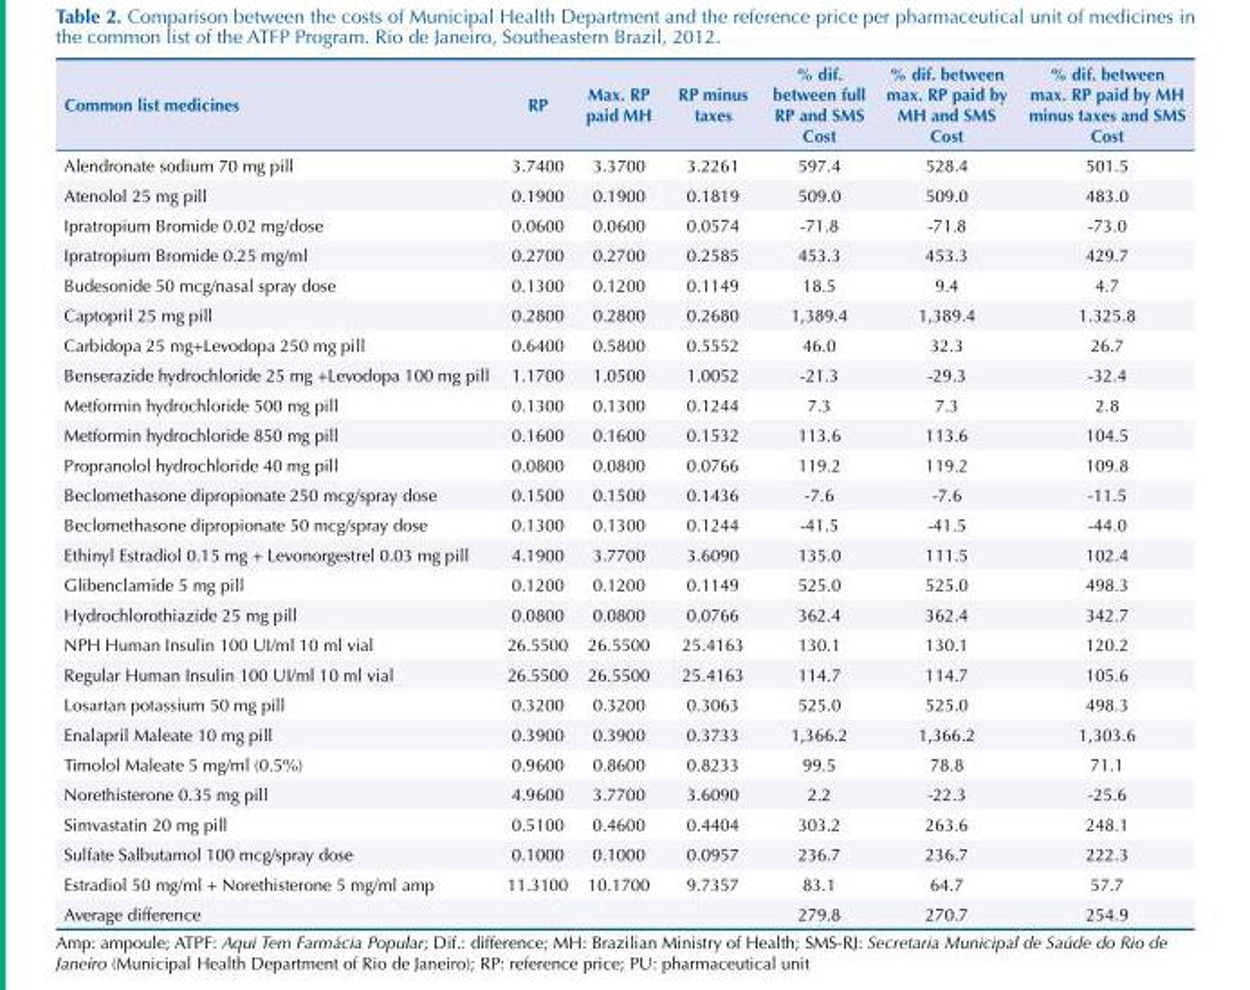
<table><thead><tr><td>Common list medicines</td><td>RP</td><td>Max. RP paid MH</td><td>RP minus taxes</td><td>% dif. between full RP and SMS Cost</td><td>% dif. between max. RP paid by MH and SMS Cost</td><td>% dif. between max. RP paid by MH minus taxes and SMS Cost</td></tr></thead><tbody><tr><td>Alendronate sodium 70 mg pill</td><td>3.7400</td><td>3.3700</td><td>3.2261</td><td>597.4</td><td>528.4</td><td>501.5</td></tr><tr><td>Atenolol 25 mg pill</td><td>0.1900</td><td>0.1900</td><td>0.1819</td><td>509.0</td><td>509.0</td><td>483.0</td></tr><tr><td>Ipratropium Bromide 0.02 mg/dose</td><td>0.0600</td><td>0.0600</td><td>0.0574</td><td>-71.8</td><td>-71.8</td><td>-73.0</td></tr><tr><td>Ipratropium Bromide 0.25 mg/ml</td><td>0.2700</td><td>0.2700</td><td>0.2585</td><td>453.3</td><td>453.3</td><td>429.7</td></tr><tr><td>Budesonide 50 mcg/nasal spray dose</td><td>0.1300</td><td>0.1200</td><td>0.1149</td><td>18.5</td><td>9.4</td><td>4.7</td></tr><tr><td>Captopril 25 mg pill</td><td>0.2800</td><td>0.2800</td><td>0.2680</td><td>1,389.4</td><td>1,389.4</td><td>1.325.8</td></tr><tr><td>Carbidopa 25 mg+Levodopa 250 mg pill</td><td>0.6400</td><td>0.5800</td><td>0.5552</td><td>46.0</td><td>32.3</td><td>26.7</td></tr><tr><td>Benserazide hydrochloride 25 mg +Levodopa 100 mg pill</td><td>1.1700</td><td>1.0500</td><td>1.0052</td><td>-21.3</td><td>-29.3</td><td>-32.4</td></tr><tr><td>Metformin hydrochloride 500 mg pill</td><td>0.1300</td><td>0.1300</td><td>0.1244</td><td>7.3</td><td>7.3</td><td>2.8</td></tr><tr><td>Metformin hydrochloride 850 mg pill</td><td>0.1600</td><td>0.1600</td><td>0.1532</td><td>113.6</td><td>113.6</td><td>104.5</td></tr><tr><td>Propranolol hydrochloride 40 mg pill</td><td>0.0800</td><td>0.0800</td><td>0.0766</td><td>119.2</td><td>119.2</td><td>109.8</td></tr><tr><td>Beclomethasone dipropionate 250 mcg/spray dose</td><td>0.1500</td><td>0.1500</td><td>0.1436</td><td>-7.6</td><td>-7.6</td><td>-11.5</td></tr><tr><td>Beclomethasone dipropionate 50 mcg/spray dose</td><td>0.1300</td><td>0.1300</td><td>0.1244</td><td>-41.5</td><td>-41.5</td><td>-44.0</td></tr><tr><td>Ethinyl Estradiol 0.15 mg + Levonorgestrel 0.03 mg pill</td><td>4.1900</td><td>3.7700</td><td>3.6090</td><td>135.0</td><td>111.5</td><td>102.4</td></tr><tr><td>Glibenclamide 5 mg pill</td><td>0.1200</td><td>0.1200</td><td>0.1149</td><td>525.0</td><td>525.0</td><td>498.3</td></tr><tr><td>Hydrochlorothiazide 25 mg pill</td><td>0.0800</td><td>0.0800</td><td>0.0766</td><td>362.4</td><td>362.4</td><td>342.7</td></tr><tr><td>NPH Human Insulin 100 UI/ml 10 ml vial</td><td>26.5500</td><td>26.5500</td><td>25.4163</td><td>130.1</td><td>130.1</td><td>120.2</td></tr><tr><td>Regular Human Insulin 100 UI/ml 10 ml vial</td><td>26.5500</td><td>26.5500</td><td>25.4163</td><td>114.7</td><td>114.7</td><td>105.6</td></tr><tr><td>Losartan potassium 50 mg pill</td><td>0.3200</td><td>0.3200</td><td>0.3063</td><td>525.0</td><td>525.0</td><td>498.3</td></tr><tr><td>Enalapril Maleate 10 mg pill</td><td>0.3900</td><td>0.3900</td><td>0.3733</td><td>1,366.2</td><td>1,366.2</td><td>1,303.6</td></tr><tr><td>Timolol Maleate 5 mg/ml (0.5%)</td><td>0.9600</td><td>0.8600</td><td>0.8233</td><td>99.5</td><td>78.8</td><td>71.1</td></tr><tr><td>Norethisterone 0.35 mg pill</td><td>4.9600</td><td>3.7700</td><td>3.6090</td><td>2.2</td><td>-22.3</td><td>-25.6</td></tr><tr><td>Simvastatin 20 mg pill</td><td>0.5100</td><td>0.4600</td><td>0.4404</td><td>303.2</td><td>263.6</td><td>248.1</td></tr><tr><td>Sulfate Salbutamol 100 mcg/spray dose</td><td>0.1000</td><td>0.1000</td><td>0.0957</td><td>236.7</td><td>236.7</td><td>222.3</td></tr><tr><td>Estradiol 50 mg/ml + Norethisterone 5 mg/ml amp</td><td>11.3100</td><td>10.1700</td><td>9.7357</td><td>83.1</td><td>64.7</td><td>57.7</td></tr><tr><td>Average difference</td><td></td><td></td><td></td><td>279.8</td><td>270.7</td><td>254.9</td></tr></tbody></table>